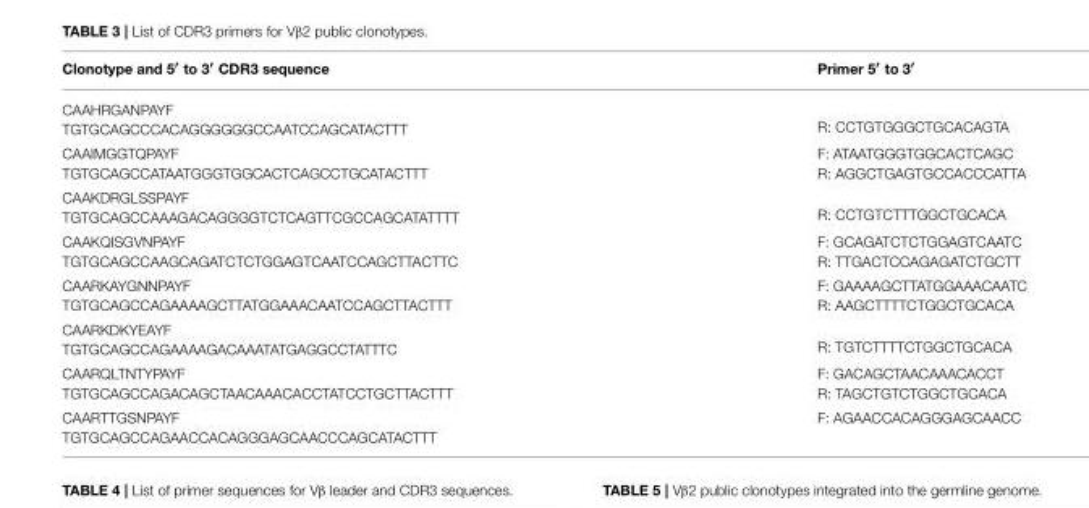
<table><thead><tr><td>Clonotype and 5′ to 3′ CDR3 sequence</td><td>Primer 5′ to 3′</td></tr></thead><tbody><tr><td>CAAHRGANPAYF TGTGCAGCCCACAGGGGGGCCAATCCAGCATACTTT</td><td>R: CCTGTGGGCTGCACAGTA</td></tr><tr><td>CAAIMGGTQPAYF TGTGCAGCCATAATGGGTGGCACTCAGCCTGCATACTTT</td><td>F: ATAATGGGTGGCACTCAGC R: AGGCTGAGTGCCACCCATTA</td></tr><tr><td>CAAKDRGLSSPAYF TGTGCAGCCAAAGACAGGGGTCTCAGTTCGCCAGCATATTTT</td><td>R: CCTGTCTTTGGCTGCACA</td></tr><tr><td>CAAKQISGVNPAYF TGTGCAGCCAAGCAGATCTCTGGAGTCAATCCAGCTTACTTC</td><td>F: GCAGATCTCTGGAGTCAATC R: TTGACTCCAGAGATCTGCTT</td></tr><tr><td>CAARKAYGNNPAYF TGTGCAGCCAGAAAAGCTTATGGAAACAATCCAGCTTACTTT</td><td>F: GAAAAGCTTATGGAAACAATC R: AAGCTTTTCTGGCTGCACA</td></tr><tr><td>CAARKDKYEAYF TGTGCAGCCAGAAAAGACAAATATGAGGCCTATTTC</td><td>R: TGTCTTTTCTGGCTGCACA</td></tr><tr><td>CAARQLTNTYPAYF TGTGCAGCCAGACAGCTAACAAACACCTATCCTGCTTACTTT</td><td>F: GACAGCTAACAAACACCT R: TAGCTGTCTGGCTGCACA</td></tr><tr><td>CAARTTGSNPAYF TGTGCAGCCAGAACCACAGGGAGCAACCCAGCATACTTT</td><td>F: AGAACCACAGGGAGCAACC</td></tr></tbody></table>